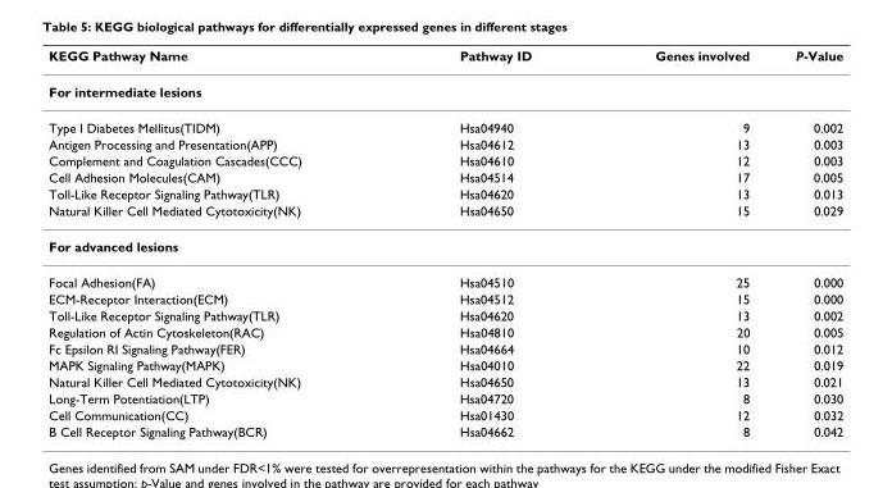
<table><thead><tr><td>KEGG Pathway Name</td><td>Pathway ID</td><td>Genes involved</td><td>P-Value</td></tr></thead><tbody><tr><td colspan="4">For intermediate lesions</td></tr><tr><td>Type I Diabetes Mellitus(TIDM)</td><td>Hsa04940</td><td>9</td><td>0.002</td></tr><tr><td>Antigen Processing and Presentation(APP)</td><td>Hsa04612</td><td>13</td><td>0.003</td></tr><tr><td>Complement and Coagulation Cascades(CCC)</td><td>Hsa04610</td><td>12</td><td>0.003</td></tr><tr><td>Cell Adhesion Molecules(CAM)</td><td>Hsa04514</td><td>17</td><td>0.005</td></tr><tr><td>Toll-Like Receptor Signaling Pathway(TLR)</td><td>Hsa04620</td><td>13</td><td>0.013</td></tr><tr><td>Natural Killer Cell Mediated Cytotoxicity(NK)</td><td>Hsa04650</td><td>15</td><td>0.029</td></tr><tr><td colspan="4">For advanced lesions</td></tr><tr><td>Focal Adhesion(FA)</td><td>Hsa04510</td><td>25</td><td>0.000</td></tr><tr><td>ECM-Receptor Interaction(ECM)</td><td>Hsa04512</td><td>15</td><td>0.000</td></tr><tr><td>Toll-Like Receptor Signaling Pathway(TLR)</td><td>Hsa04620</td><td>13</td><td>0.002</td></tr><tr><td>Regulation of Actin Cytoskeleton(RAC)</td><td>Hsa04810</td><td>20</td><td>0.005</td></tr><tr><td>Fc Epsilon RI Signaling Pathway(FER)</td><td>Hsa04664</td><td>10</td><td>0.012</td></tr><tr><td>MAPK Signaling Pathway(MAPK)</td><td>Hsa04010</td><td>22</td><td>0.019</td></tr><tr><td>Natural Killer Cell Mediated Cytotoxicity(NK)</td><td>Hsa04650</td><td>13</td><td>0.021</td></tr><tr><td>Long-Term Potentiation(LTP)</td><td>Hsa04720</td><td>8</td><td>0.030</td></tr><tr><td>Cell Communication(CC)</td><td>Hsa01430</td><td>12</td><td>0.032</td></tr><tr><td>B Cell Receptor Signaling Pathway(BCR)</td><td>Hsa04662</td><td>8</td><td>0.042</td></tr></tbody></table>